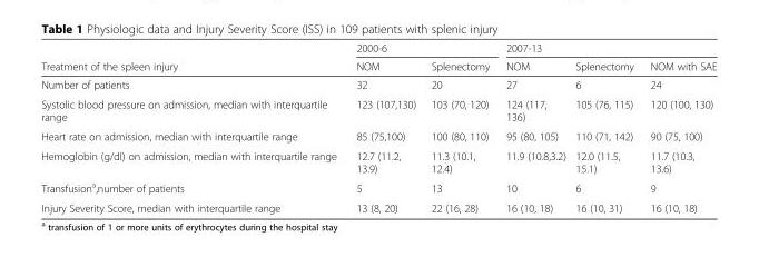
<table><thead><tr><td rowspan="2">Treatment of the spleen injury</td><td colspan="2">2000-6</td><td colspan="3">2007-13</td></tr><tr><td>NOM</td><td>Splenectomy</td><td>NOM</td><td>Splenectomy</td><td>NOM with SAE</td></tr></thead><tbody><tr><td>Number of patients</td><td>32</td><td>20</td><td>27</td><td>6</td><td>24</td></tr><tr><td>Systolic blood pressure on admission, median with interquartile range</td><td>123 (107,130)</td><td>103 (70, 120)</td><td>124 (117, 136)</td><td>105 (76, 115)</td><td>120 (100, 130)</td></tr><tr><td>Heart rate on admission, median with interquartile range</td><td>85 (75,100)</td><td>100 (80, 110)</td><td>95 (80, 105)</td><td>110 (71, 142)</td><td>90 (75, 100)</td></tr><tr><td>Hemoglobin (g/dl) on admission, median with interquartile range</td><td>12.7 (11.2, 13.9)</td><td>11.3 (10.1, 12.4)</td><td>11.9 (10.8,3.2)</td><td>12.0 (11.5, 15.1)</td><td>11.7 (10.3, 13.6)</td></tr><tr><td>Transfusion<sup>a</sup>,number of patients</td><td>5</td><td>13</td><td>10</td><td>6</td><td>9</td></tr><tr><td>Injury Severity Score, median with interquartile range</td><td>13 (8, 20)</td><td>22 (16, 28)</td><td>16 (10, 18)</td><td>16 (10, 31)</td><td>16 (10, 18)</td></tr></tbody></table>